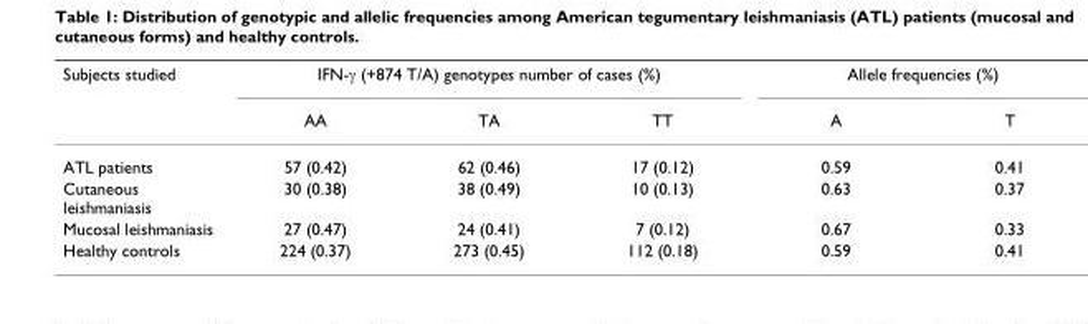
<table><thead><tr><td rowspan="2">Subjects studied</td><td colspan="3">IFN-γ (+874 T/A) genotypes number of cases (%)</td><td colspan="2">Allele frequencies (%)</td></tr><tr><td>AA</td><td>TA</td><td>TT</td><td>A</td><td>T</td></tr></thead><tbody><tr><td>ATL patients</td><td>57 (0.42)</td><td>62 (0.46)</td><td>17 (0.12)</td><td>0.59</td><td>0.41</td></tr><tr><td>Cutaneous leishmaniasis</td><td>30 (0.38)</td><td>38 (0.49)</td><td>10 (0.13)</td><td>0.63</td><td>0.37</td></tr><tr><td>Mucosal leishmaniasis</td><td>27 (0.47)</td><td>24 (0.41)</td><td>7 (0.12)</td><td>0.67</td><td>0.33</td></tr><tr><td>Healthy controls</td><td>224 (0.37)</td><td>273 (0.45)</td><td>112 (0.18)</td><td>0.59</td><td>0.41</td></tr></tbody></table>